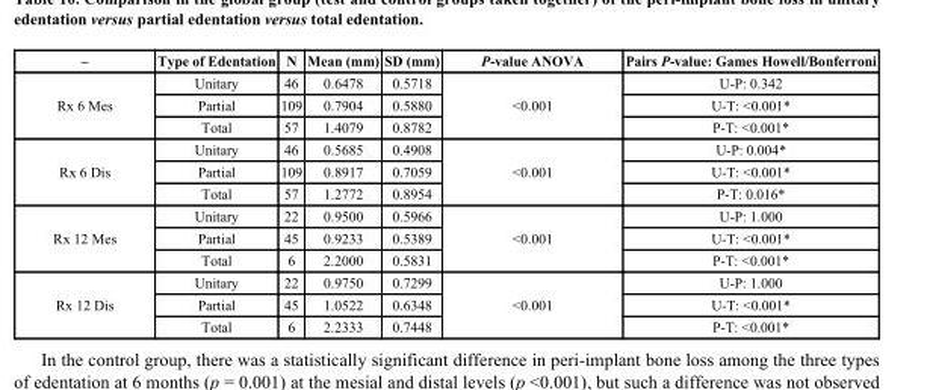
<table><thead><tr><td>–</td><td>Type of Edentation</td><td>N</td><td>Mean (mm)</td><td>SD (mm)</td><td>P-value ANOVA</td><td>Pairs P-value: Games Howell/Bonferroni</td></tr></thead><tbody><tr><td rowspan="3">Rx 6 Mes</td><td>Unitary</td><td>46</td><td>0.6478</td><td>0.5718</td><td rowspan="3">&lt;0.001</td><td>U-P: 0.342</td></tr><tr><td>Partial</td><td>109</td><td>0.7904</td><td>0.5880</td><td>U-T: &lt;0.001*</td></tr><tr><td>Total</td><td>57</td><td>1.4079</td><td>0.8782</td><td>P-T: &lt;0.001*</td></tr><tr><td rowspan="3">Rx 6 Dis</td><td>Unitary</td><td>46</td><td>0.5685</td><td>0.4908</td><td rowspan="3">&lt;0.001</td><td>U-P: 0.004*</td></tr><tr><td>Partial</td><td>109</td><td>0.8917</td><td>0.7059</td><td>U-T: &lt;0.001*</td></tr><tr><td>Total</td><td>57</td><td>1.2772</td><td>0.8954</td><td>P-T: 0.016*</td></tr><tr><td rowspan="3">Rx 12 Mes</td><td>Unitary</td><td>22</td><td>0.9500</td><td>0.5966</td><td rowspan="3">&lt;0.001</td><td>U-P: 1.000</td></tr><tr><td>Partial</td><td>45</td><td>0.9233</td><td>0.5389</td><td>U-T: &lt;0.001*</td></tr><tr><td>Total</td><td>6</td><td>2.2000</td><td>0.5831</td><td>P-T: &lt;0.001*</td></tr><tr><td rowspan="3">Rx 12 Dis</td><td>Unitary</td><td>22</td><td>0.9750</td><td>0.7299</td><td rowspan="3">&lt;0.001</td><td>U-P: 1.000</td></tr><tr><td>Partial</td><td>45</td><td>1.0522</td><td>0.6348</td><td>U-T: &lt;0.001*</td></tr><tr><td>Total</td><td>6</td><td>2.2333</td><td>0.7448</td><td>P-T: &lt;0.001*</td></tr></tbody></table>